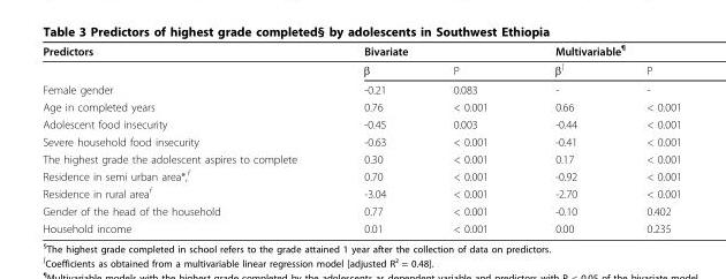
<table><thead><tr><td rowspan="2">Predictors</td><td colspan="2">Bivariate</td><td colspan="2">Multivariable<sup>¶</sup></td></tr><tr><td>β</td><td>P</td><td>β<sup>∫</sup></td><td>P</td></tr></thead><tbody><tr><td>Female gender</td><td>-0.21</td><td>0.083</td><td>-</td><td>-</td></tr><tr><td>Age in completed years</td><td>0.76</td><td>&lt; 0.001</td><td>0.66</td><td>&lt; 0.001</td></tr><tr><td>Adolescent food insecurity</td><td>-0.45</td><td>0.003</td><td>-0.44</td><td>&lt; 0.001</td></tr><tr><td>Severe household food insecurity</td><td>-0.63</td><td>&lt; 0.001</td><td>-0.41</td><td>&lt; 0.001</td></tr><tr><td>The highest grade the adolescent aspires to complete</td><td>0.30</td><td>&lt; 0.001</td><td>0.17</td><td>&lt; 0.001</td></tr><tr><td>Residence in semi urban area*,<sup>f</sup></td><td>0.70</td><td>&lt; 0.001</td><td>-0.92</td><td>&lt; 0.001</td></tr><tr><td>Residence in rural area<sup>f</sup></td><td>-3.04</td><td>&lt; 0.001</td><td>-2.70</td><td>&lt; 0.001</td></tr><tr><td>Gender of the head of the household</td><td>0.77</td><td>&lt; 0.001</td><td>-0.10</td><td>0.402</td></tr><tr><td>Household income</td><td>0.01</td><td>&lt; 0.001</td><td>0.00</td><td>0.235</td></tr></tbody></table>